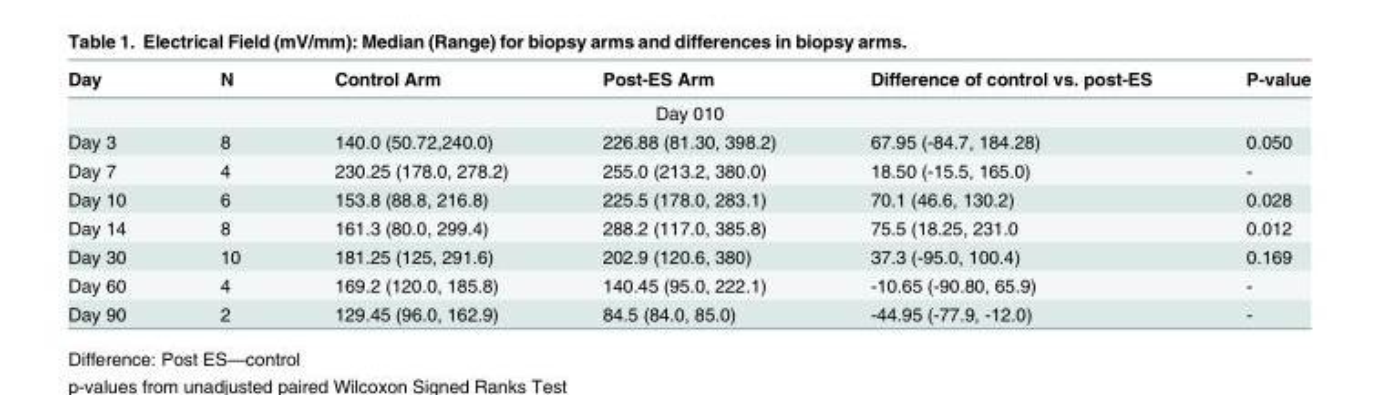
<table><thead><tr><td>Day</td><td>N</td><td>Control Arm</td><td>Post-ES Arm</td><td>Difference of control vs. post-ES</td><td>P-value</td></tr></thead><tbody><tr><td colspan="6">Day 010</td></tr><tr><td>Day 3</td><td>8</td><td>140.0 (50.72,240.0)</td><td>226.88 (81.30, 398.2)</td><td>67.95 (-84.7, 184.28)</td><td>0.050</td></tr><tr><td>Day 7</td><td>4</td><td>230.25 (178.0, 278.2)</td><td>255.0 (213.2, 380.0)</td><td>18.50 (-15.5, 165.0)</td><td>-</td></tr><tr><td>Day 10</td><td>6</td><td>153.8 (88.8, 216.8)</td><td>225.5 (178.0, 283.1)</td><td>70.1 (46.6, 130.2)</td><td>0.028</td></tr><tr><td>Day 14</td><td>8</td><td>161.3 (80.0, 299.4)</td><td>288.2 (117.0, 385.8)</td><td>75.5 (18.25, 231.0</td><td>0.012</td></tr><tr><td>Day 30</td><td>10</td><td>181.25 (125, 291.6)</td><td>202.9 (120.6, 380)</td><td>37.3 (-95.0, 100.4)</td><td>0.169</td></tr><tr><td>Day 60</td><td>4</td><td>169.2 (120.0, 185.8)</td><td>140.45 (95.0, 222.1)</td><td>-10.65 (-90.80, 65.9)</td><td>-</td></tr><tr><td>Day 90</td><td>2</td><td>129.45 (96.0, 162.9)</td><td>84.5 (84.0, 85.0)</td><td>-44.95 (-77.9, -12.0)</td><td>-</td></tr></tbody></table>